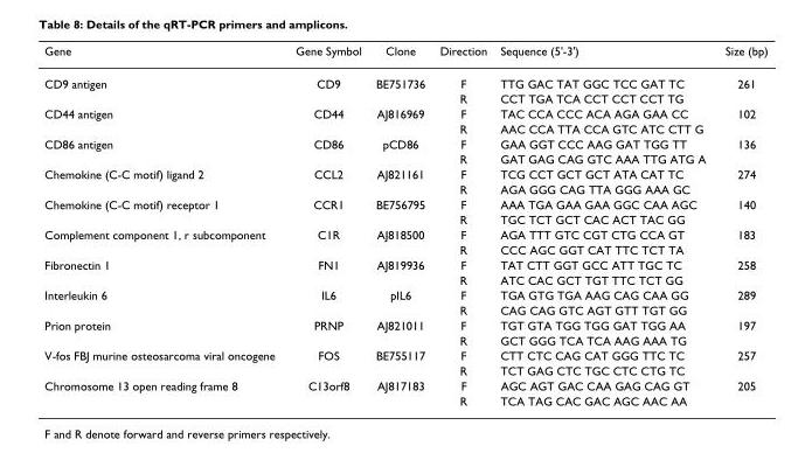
<table><thead><tr><td>Gene</td><td>Gene Symbol</td><td>Clone</td><td>Direction</td><td>Sequence (5&#x27;-3&#x27;)</td><td>Size (bp)</td></tr></thead><tbody><tr><td rowspan="2">CD9 antigen</td><td>CD9</td><td>BE751736</td><td>F</td><td>TTG GAC TAT GGC TCC GAT TC</td><td>261</td></tr><tr><td></td><td></td><td>R</td><td>CCT TGA TCA CCT CCT CCT TG</td><td></td></tr><tr><td rowspan="2">CD44 antigen</td><td>CD44</td><td>AJ816969</td><td>F</td><td>TAC CCA CCC ACA AGA GAA CC</td><td>102</td></tr><tr><td></td><td></td><td>R</td><td>AAC CCA TTA CCA GTC ATC CTT G</td><td></td></tr><tr><td rowspan="2">CD86 antigen</td><td>CD86</td><td>pCD86</td><td>F</td><td>GAA GGT CCC AAG GAT TGG TT</td><td>136</td></tr><tr><td></td><td></td><td>R</td><td>GAT GAG CAG GTC AAA TTG ATG A</td><td></td></tr><tr><td rowspan="2">Chemokine (C-C motif) ligand 2</td><td>CCL2</td><td>AJ821161</td><td>F</td><td>TCG CCT GCT GCT ATA CAT TC</td><td>274</td></tr><tr><td></td><td></td><td>R</td><td>AGA GGG CAG TTA GGG AAA GC</td><td></td></tr><tr><td rowspan="2">Chemokine (C-C motif) receptor 1</td><td>CCR1</td><td>BE756795</td><td>F</td><td>AAA TGA GAA GAA GGC CAA AGC</td><td>140</td></tr><tr><td></td><td></td><td>R</td><td>TGC TCT GCT CAC ACT TAC GG</td><td></td></tr><tr><td rowspan="2">Complement component 1, r subcomponent</td><td>C1R</td><td>AJ818500</td><td>F</td><td>AGA TTT GTC CGT CTG CCA GT</td><td>183</td></tr><tr><td></td><td></td><td>R</td><td>CCC AGC GGT CAT TTC TCT TA</td><td></td></tr><tr><td rowspan="2">Fibronectin 1</td><td>FN1</td><td>AJ819936</td><td>F</td><td>TAT CTT GGT GCC ATT TGC TC</td><td>258</td></tr><tr><td></td><td></td><td>R</td><td>ATC CAC GCT TGT TTC TCT GG</td><td></td></tr><tr><td rowspan="2">Interleukin 6</td><td>IL6</td><td>pIL6</td><td>F</td><td>TGA GTG TGA AAG CAG CAA GG</td><td>289</td></tr><tr><td></td><td></td><td>R</td><td>CAG CAG GTC AGT GTT TGT GG</td><td></td></tr><tr><td rowspan="2">Prion protein</td><td>PRNP</td><td>AJ821011</td><td>F</td><td>TGT GTA TGG TGG GAT TGG AA</td><td>197</td></tr><tr><td></td><td></td><td>R</td><td>GCT GGG TCA TCA AAG AAA TG</td><td></td></tr><tr><td rowspan="2">V-fos FBJ murine osteosarcoma viral oncogene</td><td>FOS</td><td>BE755117</td><td>F</td><td>CTT CTC CAG CAT GGG TTC TC</td><td>257</td></tr><tr><td></td><td></td><td>R</td><td>TCT GAG CTC TGC CTC CTG TC</td><td></td></tr><tr><td rowspan="2">Chromosome 13 open reading frame 8</td><td>C13orf8</td><td>AJ817183</td><td>F</td><td>AGC AGT GAC CAA GAG CAG GT</td><td>205</td></tr><tr><td></td><td></td><td>R</td><td>TCA TAG CAC GAC AGC AAC AA</td><td></td></tr></tbody></table>